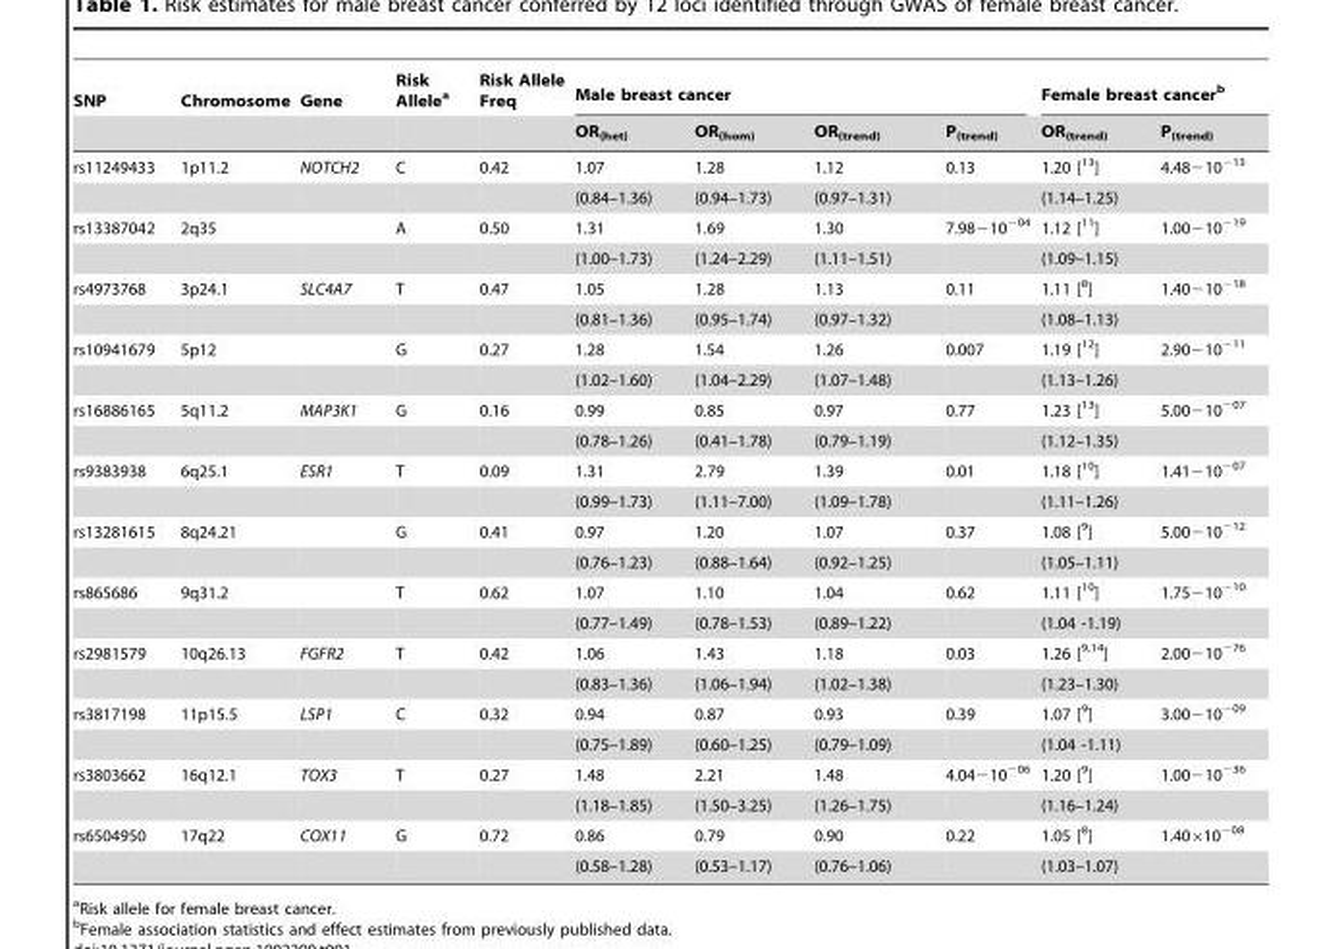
<table><thead><tr><td rowspan="2">SNP</td><td rowspan="2">Chromosome</td><td rowspan="2">Gene</td><td rowspan="2">Risk Allele<sup>a</sup></td><td rowspan="2">Risk Allele Freq</td><td colspan="4">Male breast cancer</td><td colspan="2">Female breast cancer<sup>b</sup></td></tr><tr><td>OR<sub>(het)</sub></td><td>OR<sub>(hom)</sub></td><td>OR<sub>(trend)</sub></td><td>P<sub>(trend)</sub></td><td>OR<sub>(trend)</sub></td><td>P<sub>(trend)</sub></td></tr></thead><tbody><tr><td rowspan="2">rs11249433</td><td>1p11.2</td><td>NOTCH2</td><td>C</td><td>0.42</td><td>1.07</td><td>1.28</td><td>1.12</td><td>0.13</td><td>1.20 [<sup>13</sup>]</td><td>4.48−10<sup>−13</sup></td></tr><tr><td></td><td></td><td></td><td></td><td>(0.84–1.36)</td><td>(0.94–1.73)</td><td>(0.97–1.31)</td><td></td><td>(1.14–1.25)</td><td></td></tr><tr><td rowspan="2">rs13387042</td><td>2q35</td><td></td><td>A</td><td>0.50</td><td>1.31</td><td>1.69</td><td>1.30</td><td>7.98−10<sup>−04</sup></td><td>1.12 [<sup>11</sup>]</td><td>1.00−10<sup>−19</sup></td></tr><tr><td></td><td></td><td></td><td></td><td>(1.00–1.73)</td><td>(1.24–2.29)</td><td>(1.11–1.51)</td><td></td><td>(1.09–1.15)</td><td></td></tr><tr><td rowspan="2">rs4973768</td><td>3p24.1</td><td>SLC4A7</td><td>T</td><td>0.47</td><td>1.05</td><td>1.28</td><td>1.13</td><td>0.11</td><td>1.11 [<sup>8</sup>]</td><td>1.40−10<sup>−18</sup></td></tr><tr><td></td><td></td><td></td><td></td><td>(0.81–1.36)</td><td>(0.95–1.74)</td><td>(0.97–1.32)</td><td></td><td>(1.08–1.13)</td><td></td></tr><tr><td rowspan="2">rs10941679</td><td>5p12</td><td></td><td>G</td><td>0.27</td><td>1.28</td><td>1.54</td><td>1.26</td><td>0.007</td><td>1.19 [<sup>12</sup>]</td><td>2.90−10<sup>−11</sup></td></tr><tr><td></td><td></td><td></td><td></td><td>(1.02–1.60)</td><td>(1.04–2.29)</td><td>(1.07–1.48)</td><td></td><td>(1.13–1.26)</td><td></td></tr><tr><td rowspan="2">rs16886165</td><td>5q11.2</td><td>MAP3K1</td><td>G</td><td>0.16</td><td>0.99</td><td>0.85</td><td>0.97</td><td>0.77</td><td>1.23 [<sup>13</sup>]</td><td>5.00−10<sup>−07</sup></td></tr><tr><td></td><td></td><td></td><td></td><td>(0.78–1.26)</td><td>(0.41–1.78)</td><td>(0.79–1.19)</td><td></td><td>(1.12–1.35)</td><td></td></tr><tr><td rowspan="2">rs9383938</td><td>6q25.1</td><td>ESR1</td><td>T</td><td>0.09</td><td>1.31</td><td>2.79</td><td>1.39</td><td>0.01</td><td>1.18 [<sup>10</sup>]</td><td>1.41−10<sup>−07</sup></td></tr><tr><td></td><td></td><td></td><td></td><td>(0.99–1.73)</td><td>(1.11–7.00)</td><td>(1.09–1.78)</td><td></td><td>(1.11–1.26)</td><td></td></tr><tr><td rowspan="2">rs13281615</td><td>8q24.21</td><td></td><td>G</td><td>0.41</td><td>0.97</td><td>1.20</td><td>1.07</td><td>0.37</td><td>1.08 [<sup>9</sup>]</td><td>5.00−10<sup>−12</sup></td></tr><tr><td></td><td></td><td></td><td></td><td>(0.76–1.23)</td><td>(0.88–1.64)</td><td>(0.92–1.25)</td><td></td><td>(1.05–1.11)</td><td></td></tr><tr><td rowspan="2">rs865686</td><td>9q31.2</td><td></td><td>T</td><td>0.62</td><td>1.07</td><td>1.10</td><td>1.04</td><td>0.62</td><td>1.11 [<sup>10</sup>]</td><td>1.75−10<sup>−10</sup></td></tr><tr><td></td><td></td><td></td><td></td><td>(0.77–1.49)</td><td>(0.78–1.53)</td><td>(0.89–1.22)</td><td></td><td>(1.04 -1.19)</td><td></td></tr><tr><td rowspan="2">rs2981579</td><td>10q26.13</td><td>FGFR2</td><td>T</td><td>0.42</td><td>1.06</td><td>1.43</td><td>1.18</td><td>0.03</td><td>1.26 [9,14]</td><td>2.00−10<sup>−76</sup></td></tr><tr><td></td><td></td><td></td><td></td><td>(0.83–1.36)</td><td>(1.06–1.94)</td><td>(1.02–1.38)</td><td></td><td>(1.23–1.30)</td><td></td></tr><tr><td rowspan="2">rs3817198</td><td>11p15.5</td><td>LSP1</td><td>C</td><td>0.32</td><td>0.94</td><td>0.87</td><td>0.93</td><td>0.39</td><td>1.07 [<sup>9</sup>]</td><td>3.00−10<sup>−09</sup></td></tr><tr><td></td><td></td><td></td><td></td><td>(0.75–1.89)</td><td>(0.60–1.25)</td><td>(0.79–1.09)</td><td></td><td>(1.04 -1.11)</td><td></td></tr><tr><td rowspan="2">rs3803662</td><td>16q12.1</td><td>TOX3</td><td>T</td><td>0.27</td><td>1.48</td><td>2.21</td><td>1.48</td><td>4.04−10<sup>−06</sup></td><td>1.20 [<sup>9</sup>]</td><td>1.00−10<sup>−36</sup></td></tr><tr><td></td><td></td><td></td><td></td><td>(1.18–1.85)</td><td>(1.50–3.25)</td><td>(1.26–1.75)</td><td></td><td>(1.16–1.24)</td><td></td></tr><tr><td rowspan="2">rs6504950</td><td>17q22</td><td>COX11</td><td>G</td><td>0.72</td><td>0.86</td><td>0.79</td><td>0.90</td><td>0.22</td><td>1.05 [<sup>8</sup>]</td><td>1.40×10<sup>−08</sup></td></tr><tr><td></td><td></td><td></td><td></td><td>(0.58–1.28)</td><td>(0.53–1.17)</td><td>(0.76–1.06)</td><td></td><td>(1.03–1.07)</td><td></td></tr></tbody></table>